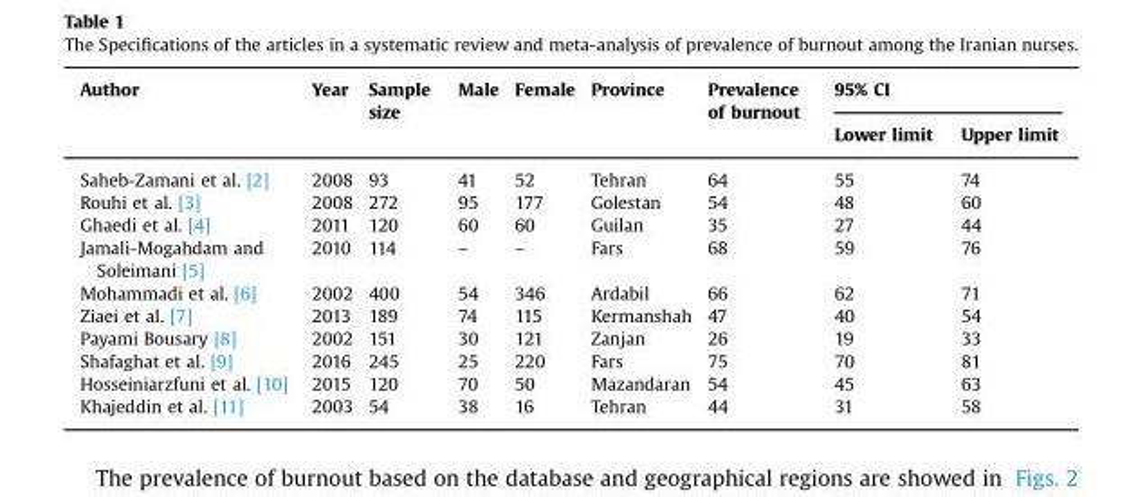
<table><thead><tr><td rowspan="2">Author</td><td rowspan="2">Year</td><td rowspan="2">Sample size</td><td rowspan="2">Male</td><td rowspan="2">Female</td><td rowspan="2">Province</td><td rowspan="2">Prevalence of burnout</td><td colspan="2">95% CI</td></tr><tr><td>Lower limit</td><td>Upper limit</td></tr></thead><tbody><tr><td>Saheb-Zamani et al. [2]</td><td>2008</td><td>93</td><td>41</td><td>52</td><td>Tehran</td><td>64</td><td>55</td><td>74</td></tr><tr><td>Rouhi et al. [3]</td><td>2008</td><td>272</td><td>95</td><td>177</td><td>Golestan</td><td>54</td><td>48</td><td>60</td></tr><tr><td>Ghaedi et al. [4]</td><td>2011</td><td>120</td><td>60</td><td>60</td><td>Guilan</td><td>35</td><td>27</td><td>44</td></tr><tr><td>Jamali-Mogahdam and Soleimani [5]</td><td>2010</td><td>114</td><td>–</td><td>–</td><td>Fars</td><td>68</td><td>59</td><td>76</td></tr><tr><td>Mohammadi et al. [6]</td><td>2002</td><td>400</td><td>54</td><td>346</td><td>Ardabil</td><td>66</td><td>62</td><td>71</td></tr><tr><td>Ziaei et al. [7]</td><td>2013</td><td>189</td><td>74</td><td>115</td><td>Kermanshah</td><td>47</td><td>40</td><td>54</td></tr><tr><td>Payami Bousary [8]</td><td>2002</td><td>151</td><td>30</td><td>121</td><td>Zanjan</td><td>26</td><td>19</td><td>33</td></tr><tr><td>Shafaghat et al. [9]</td><td>2016</td><td>245</td><td>25</td><td>220</td><td>Fars</td><td>75</td><td>70</td><td>81</td></tr><tr><td>Hosseiniarzfuni et al. [10]</td><td>2015</td><td>120</td><td>70</td><td>50</td><td>Mazandaran</td><td>54</td><td>45</td><td>63</td></tr><tr><td>Khajeddin et al. [11]</td><td>2003</td><td>54</td><td>38</td><td>16</td><td>Tehran</td><td>44</td><td>31</td><td>58</td></tr></tbody></table>